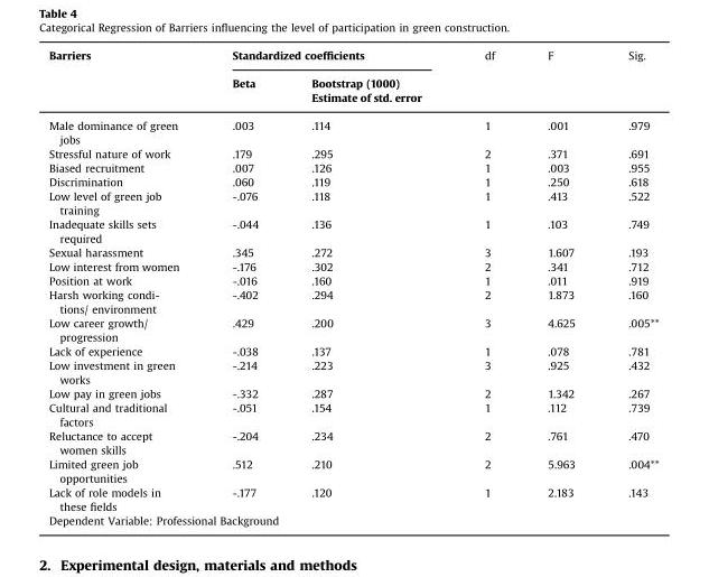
<table><thead><tr><td rowspan="2">Barriers</td><td colspan="2">Standardized coefficients</td><td rowspan="2">df</td><td rowspan="2">F</td><td rowspan="2">Sig.</td></tr><tr><td>Beta</td><td>Bootstrap (1000) Estimate of std. error</td></tr></thead><tbody><tr><td>Male dominance of green jobs</td><td>.003</td><td>.114</td><td>1</td><td>.001</td><td>.979</td></tr><tr><td>Stressful nature of work</td><td>.179</td><td>.295</td><td>2</td><td>.371</td><td>.691</td></tr><tr><td>Biased recruitment</td><td>.007</td><td>.126</td><td>1</td><td>.003</td><td>.955</td></tr><tr><td>Discrimination</td><td>.060</td><td>.119</td><td>1</td><td>.250</td><td>.618</td></tr><tr><td>Low level of green job training</td><td>-.076</td><td>.118</td><td>1</td><td>.413</td><td>.522</td></tr><tr><td>Inadequate skills sets required</td><td>-.044</td><td>.136</td><td>1</td><td>.103</td><td>.749</td></tr><tr><td>Sexual harassment</td><td>.345</td><td>.272</td><td>3</td><td>1.607</td><td>.193</td></tr><tr><td>Low interest from women</td><td>-.176</td><td>.302</td><td>2</td><td>.341</td><td>.712</td></tr><tr><td>Position at work</td><td>-.016</td><td>.160</td><td>1</td><td>.011</td><td>.919</td></tr><tr><td>Harsh working condi- tions/ environment</td><td>-.402</td><td>.294</td><td>2</td><td>1.873</td><td>.160</td></tr><tr><td>Low career growth/ progression</td><td>.429</td><td>.200</td><td>3</td><td>4.625</td><td>.005**</td></tr><tr><td>Lack of experience</td><td>-.038</td><td>.137</td><td>1</td><td>.078</td><td>.781</td></tr><tr><td>Low investment in green works</td><td>-.214</td><td>.223</td><td>3</td><td>.925</td><td>.432</td></tr><tr><td>Low pay in green jobs</td><td>-.332</td><td>.287</td><td>2</td><td>1.342</td><td>.267</td></tr><tr><td>Cultural and traditional factors</td><td>-.051</td><td>.154</td><td>1</td><td>.112</td><td>.739</td></tr><tr><td>Reluctance to accept women skills</td><td>-.204</td><td>.234</td><td>2</td><td>.761</td><td>.470</td></tr><tr><td>Limited green job opportunities</td><td>.512</td><td>.210</td><td>2</td><td>5.963</td><td>.004**</td></tr><tr><td>Lack of role models in these fields</td><td>-.177</td><td>.120</td><td>1</td><td>2.183</td><td>.143</td></tr><tr><td colspan="6">Dependent Variable: Professional Background</td></tr></tbody></table>